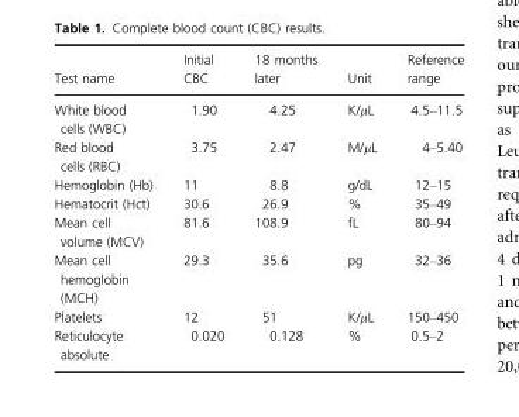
<table><thead><tr><td>Test name</td><td>Initial CBC</td><td>18 months later</td><td>Unit</td><td>Reference range</td></tr></thead><tbody><tr><td>White blood cells (WBC)</td><td>1.90</td><td>4.25</td><td>K/μL</td><td>4.5–11.5</td></tr><tr><td>Red blood cells (RBC)</td><td>3.75</td><td>2.47</td><td>M/μL</td><td>4–5.40</td></tr><tr><td>Hemoglobin (Hb)</td><td>11</td><td>8.8</td><td>g/dL</td><td>12–15</td></tr><tr><td>Hematocrit (Hct)</td><td>30.6</td><td>26.9</td><td>%</td><td>35–49</td></tr><tr><td>Mean cell volume (MCV)</td><td>81.6</td><td>108.9</td><td>fL</td><td>80–94</td></tr><tr><td>Mean cell hemoglobin (MCH)</td><td>29.3</td><td>35.6</td><td>pg</td><td>32–36</td></tr><tr><td>Platelets</td><td>12</td><td>51</td><td>K/μL</td><td>150–450</td></tr><tr><td>Reticulocyte absolute</td><td>0.020</td><td>0.128</td><td>%</td><td>0.5–2</td></tr></tbody></table>